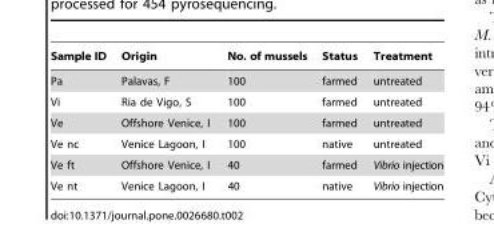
<table><thead><tr><td>Sample ID</td><td>Origin</td><td>No. of mussels</td><td>Status</td><td>Treatment</td></tr></thead><tbody><tr><td>Pa</td><td>Palavas, F</td><td>100</td><td>farmed</td><td>untreated</td></tr><tr><td>Vi</td><td>Ria de Vigo, S</td><td>100</td><td>farmed</td><td>untreated</td></tr><tr><td>Ve</td><td>Offshore Venice, I</td><td>100</td><td>farmed</td><td>untreated</td></tr><tr><td>Ve nc</td><td>Venice Lagoon, I</td><td>100</td><td>native</td><td>untreated</td></tr><tr><td>Ve ft</td><td>Offshore Venice, I</td><td>40</td><td>farmed</td><td>Vibrio injection</td></tr><tr><td>Ve nt</td><td>Venice Lagoon, I</td><td>40</td><td>native</td><td>Vibrio injection</td></tr></tbody></table>